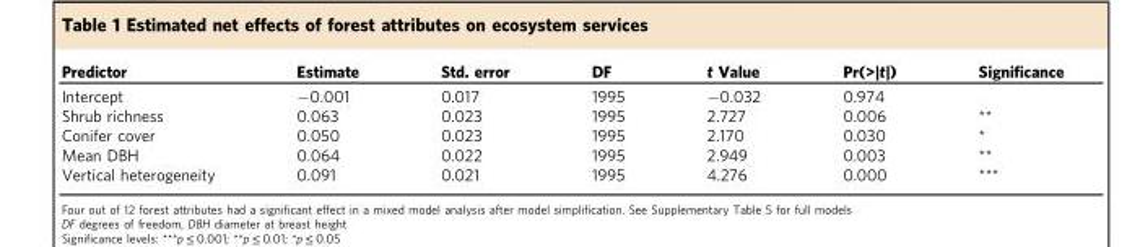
<table><thead><tr><td>Predictor</td><td>Estimate</td><td>Std. error</td><td>DF</td><td>t Value</td><td>Pr(&gt;|t|)</td><td>Significance</td></tr></thead><tbody><tr><td>Intercept</td><td>−0.001</td><td>0.017</td><td>1995</td><td>−0.032</td><td>0.974</td><td></td></tr><tr><td>Shrub richness</td><td>0.063</td><td>0.023</td><td>1995</td><td>2.727</td><td>0.006</td><td>**</td></tr><tr><td>Conifer cover</td><td>0.050</td><td>0.023</td><td>1995</td><td>2.170</td><td>0.030</td><td>*</td></tr><tr><td>Mean DBH</td><td>0.064</td><td>0.022</td><td>1995</td><td>2.949</td><td>0.003</td><td>**</td></tr><tr><td>Vertical heterogeneity</td><td>0.091</td><td>0.021</td><td>1995</td><td>4.276</td><td>0.000</td><td>***</td></tr></tbody></table>